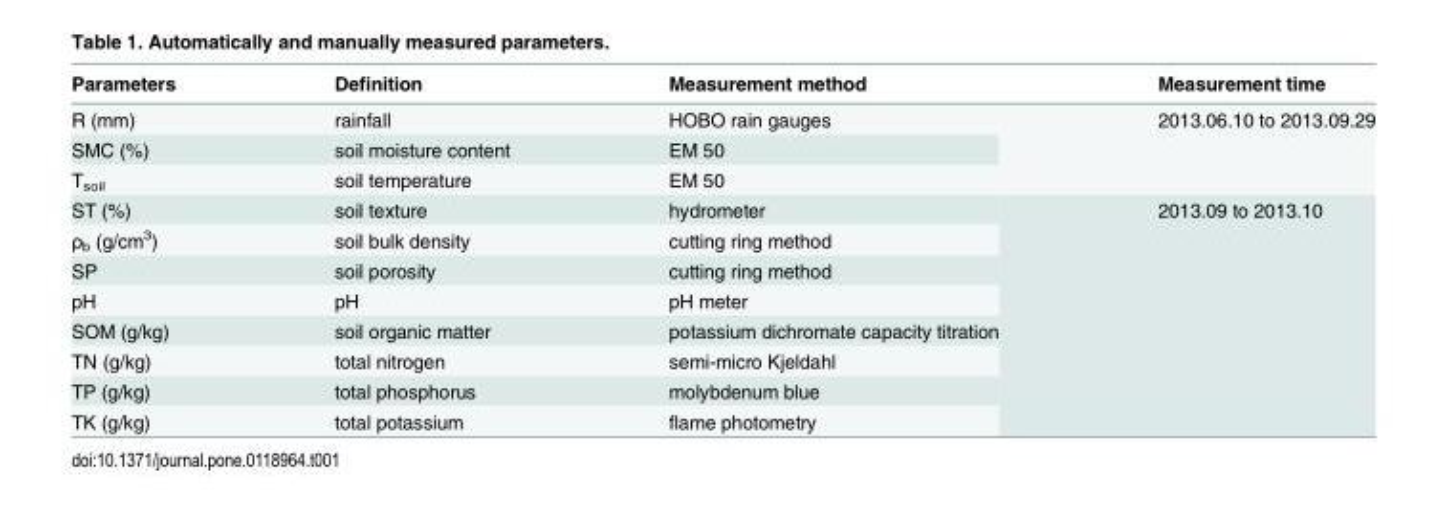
<table><thead><tr><td>Parameters</td><td>Definition</td><td>Measurement method</td><td>Measurement time</td></tr></thead><tbody><tr><td>R (mm)</td><td>rainfall</td><td>HOBO rain gauges</td><td rowspan="3">2013.06.10 to 2013.09.29</td></tr><tr><td>SMC (%)</td><td>soil moisture content</td><td>EM 50</td></tr><tr><td>T<sub>soil</sub></td><td>soil temperature</td><td>EM 50</td></tr><tr><td>ST (%)</td><td>soil texture</td><td>hydrometer</td><td rowspan="8">2013.09 to 2013.10</td></tr><tr><td>ρ<sub>b</sub> (g/cm<sup>3</sup>)</td><td>soil bulk density</td><td>cutting ring method</td></tr><tr><td>SP</td><td>soil porosity</td><td>cutting ring method</td></tr><tr><td>pH</td><td>pH</td><td>pH meter</td></tr><tr><td>SOM (g/kg)</td><td>soil organic matter</td><td>potassium dichromate capacity titration</td></tr><tr><td>TN (g/kg)</td><td>total nitrogen</td><td>semi-micro Kjeldahl</td></tr><tr><td>TP (g/kg)</td><td>total phosphorus</td><td>molybdenum blue</td></tr><tr><td>TK (g/kg)</td><td>total potassium</td><td>flame photometry</td></tr></tbody></table>